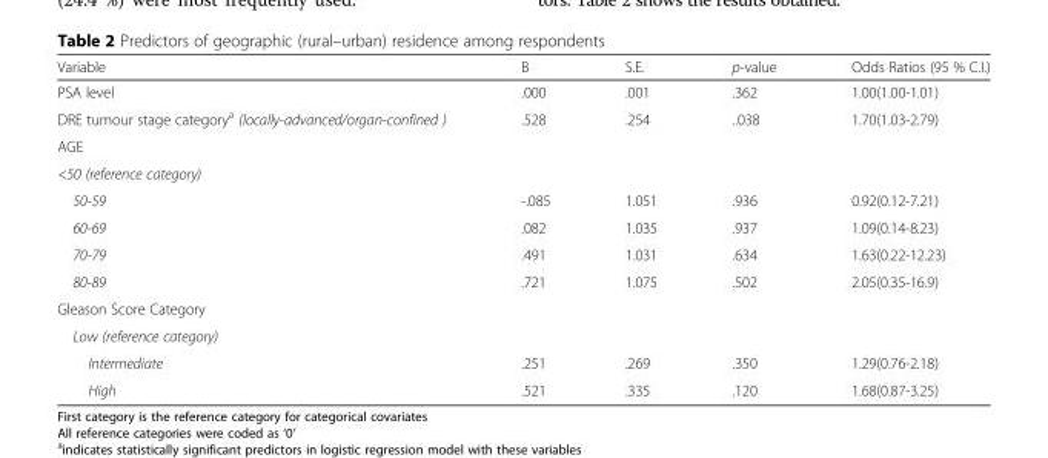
<table><thead><tr><td>Variable</td><td>B</td><td>S.E.</td><td>p-value</td><td>Odds Ratios (95 % C.I.)</td></tr></thead><tbody><tr><td>PSA level</td><td>.000</td><td>.001</td><td>.362</td><td>1.00(1.00-1.01)</td></tr><tr><td>DRE tumour stage category<sup>a</sup> (locally-advanced/organ-confined )</td><td>.528</td><td>.254</td><td>..038</td><td>1.70(1.03-2.79)</td></tr><tr><td colspan="5">AGE</td></tr><tr><td colspan="5">&lt;50 (reference category)</td></tr><tr><td>50-59</td><td>-.085</td><td>1.051</td><td>.936</td><td>0.92(0.12-7.21)</td></tr><tr><td>60-69</td><td>.082</td><td>1.035</td><td>.937</td><td>1.09(0.14-8.23)</td></tr><tr><td>70-79</td><td>.491</td><td>1.031</td><td>.634</td><td>1.63(0.22-12.23)</td></tr><tr><td>80-89</td><td>.721</td><td>1.075</td><td>.502</td><td>2.05(0.35-16.9)</td></tr><tr><td colspan="5">Gleason Score Category</td></tr><tr><td colspan="5">Low (reference category)</td></tr><tr><td>Intermediate</td><td>.251</td><td>.269</td><td>.350</td><td>1.29(0.76-2.18)</td></tr><tr><td>High</td><td>.521</td><td>.335</td><td>.120</td><td>1.68(0.87-3.25)</td></tr></tbody></table>